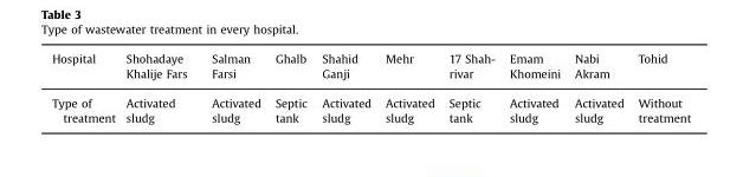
<table><thead><tr><td>Hospital</td><td>Shohadaye Khalije Fars</td><td>Salman Farsi</td><td>Ghalb</td><td>Shahid Ganji</td><td>Mehr</td><td>17 Shah- rivar</td><td>Emam Khomeini</td><td>Nabi Akram</td><td>Tohid</td></tr></thead><tbody><tr><td>Type of treatment</td><td>Activated sludg</td><td>Activated sludg</td><td>Septic tank</td><td>Activated sludg</td><td>Activated sludg</td><td>Septic tank</td><td>Activated sludg</td><td>Activated sludg</td><td>Without treatment</td></tr></tbody></table>